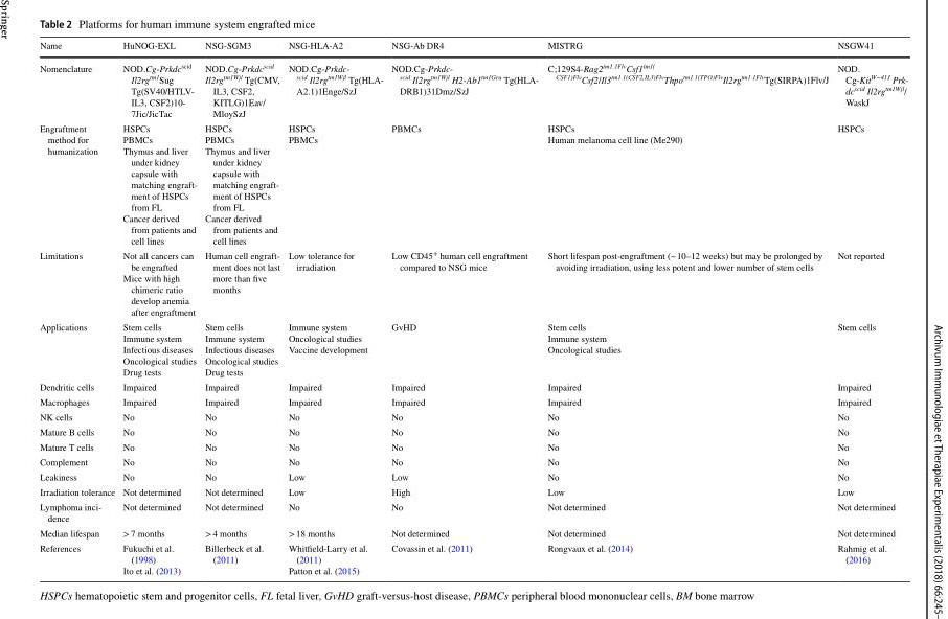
<table><thead><tr><td>Name</td><td>HuNOG-EXL</td><td>NSG-SGM3</td><td>NSG-HLA-A2</td><td>NSG-Ab DR4</td><td>MISTRG</td><td>NSGW41</td></tr></thead><tbody><tr><td>Nomenclature</td><td>NOD.Cg-Prkdc<sup>scid</sup> Il2rg<sup>tm1</sup>Sug Tg(SV40/HTLV- IL3, CSF2)10- 7Jic/JicTac</td><td>NOD.Cg-Prkdc<sup>scid</sup> Il2rg<sup>tm1Wjl</sup> Tg(CMV, IL3, CSF2, KITLG)1Eav/ MloySzJ</td><td>NOD.Cg-Prkdc- scid Il2rgtm1Wjl Tg(HLA- A2.1)1Enge/SzJ</td><td>NOD.Cg-Prkdc- scid Il2rgtm1Wjl H2-Ab1tm1Gru Tg(HLA- DRB1)31Dmz/SzJ</td><td>C;129S4-Rag2<sup>tm1.1Flv</sup>Csf1<sup>tm1( CSF1)Flv</sup>Csf2/Il3<sup>tm1.1(CSF2,IL3)Flv</sup>Thpo<sup>tm1.1(TPO)Flv</sup>Il2rg<sup>tm1.1Flv</sup>Tg(SIRPA)1Flv/J</td><td>NOD. Cg-KitW−41J Prk- dcscid Il2rgtm1Wjl/ WaskJ</td></tr><tr><td>Engraftment method for humanization</td><td>HSPCs PBMCs Thymus and liver under kidney capsule with matching engraft- ment of HSPCs from FL Cancer derived from patients and cell lines</td><td>HSPCs PBMCs Thymus and liver under kidney capsule with matching engraft- ment of HSPCs from FL Cancer derived from patients and cell lines</td><td>HSPCs PBMCs</td><td>PBMCs</td><td>HSPCs Human melanoma cell line (Me290)</td><td>HSPCs</td></tr><tr><td>Limitations</td><td>Not all cancers can be engrafted Mice with high chimeric ratio develop anemia after engraftment</td><td>Human cell engraft- ment does not last more than five months</td><td>Low tolerance for irradiation</td><td>Low CD45<sup>+</sup> human cell engraftment compared to NSG mice</td><td>Short lifespan post-engraftment (~ 10–12 weeks) but may be prolonged by avoiding irradiation, using less potent and lower number of stem cells</td><td>Not reported</td></tr><tr><td>Applications</td><td>Stem cells Immune system Infectious diseases Oncological studies Drug tests</td><td>Stem cells Immune system Infectious diseases Oncological studies Drug tests</td><td>Immune system Oncological studies Vaccine development</td><td>GvHD</td><td>Stem cells Immune system Oncological studies</td><td>Stem cells</td></tr><tr><td>Dendritic cells</td><td>Impaired</td><td>Impaired</td><td>Impaired</td><td>Impaired</td><td>Impaired</td><td>Impaired</td></tr><tr><td>Macrophages</td><td>Impaired</td><td>Impaired</td><td>Impaired</td><td>Impaired</td><td>Impaired</td><td>Impaired</td></tr><tr><td>NK cells</td><td>No</td><td>No</td><td>No</td><td>No</td><td>No</td><td>No</td></tr><tr><td>Mature B cells</td><td>No</td><td>No</td><td>No</td><td>No</td><td>No</td><td>No</td></tr><tr><td>Mature T cells</td><td>No</td><td>No</td><td>No</td><td>No</td><td>No</td><td>No</td></tr><tr><td>Complement</td><td>No</td><td>No</td><td>No</td><td>No</td><td>No</td><td>No</td></tr><tr><td>Leakiness</td><td>No</td><td>No</td><td>Low</td><td>Low</td><td>No</td><td>No</td></tr><tr><td>Irradiation tolerance</td><td>Not determined</td><td>Not determined</td><td>Low</td><td>High</td><td>Low</td><td>Low</td></tr><tr><td>Lymphoma inci- dence</td><td>Not determined</td><td>Not determined</td><td>No</td><td>No</td><td>Not determined</td><td>Not determined</td></tr><tr><td>Median lifespan</td><td>&gt; 7 months</td><td>&gt; 4 months</td><td>&gt; 18 months</td><td>Not determined</td><td>Not determined</td><td>Not determined</td></tr><tr><td>References</td><td>Fukuchi et al. (1998) Ito et al. (2013)</td><td>Billerbeck et al. (2011)</td><td>Whitfield-Larry et al. (2011) Patton et al. (2015)</td><td>Covassin et al. (2011)</td><td>Rongvaux et al. (2014)</td><td>Rahmig et al. (2016)</td></tr></tbody></table>